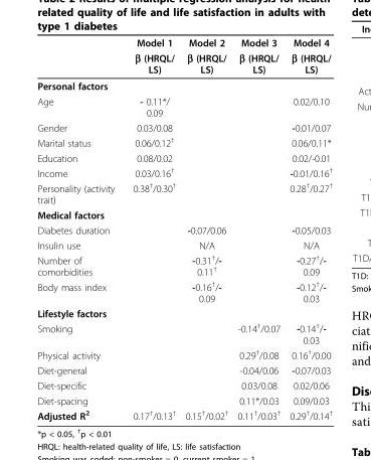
<table><thead><tr><td rowspan="2"></td><td rowspan="2">Model 1 β (HRQL/ LS)</td><td rowspan="2">Model 2 β (HRQL/ LS)</td><td rowspan="2">Model 3 β (HRQL/ LS)</td><td rowspan="2">Model 4 β (HRQL/ LS)</td></tr><tr></tr></thead><tbody><tr><td colspan="5">Personal factors</td></tr><tr><td>Age</td><td>- 0.11*/ 0.09</td><td></td><td></td><td>0.02/0.10</td></tr><tr><td>Gender</td><td>0.03/0.08</td><td></td><td></td><td>-0.01/0.07</td></tr><tr><td>Marital status</td><td>0.06/0.12<sup>†</sup></td><td></td><td></td><td>0.06/0.11*</td></tr><tr><td>Education</td><td>0.08/0.02</td><td></td><td></td><td>0.02/-0.01</td></tr><tr><td>Income</td><td>0.03/0.16<sup>†</sup></td><td></td><td></td><td>-0.01/0.16<sup>†</sup></td></tr><tr><td>Personality (activity trait)</td><td>0.38<sup>†</sup>/0.30<sup>†</sup></td><td></td><td></td><td>0.28<sup>†</sup>/0.27<sup>†</sup></td></tr><tr><td colspan="5">Medical factors</td></tr><tr><td>Diabetes duration</td><td></td><td>-0.07/0.06</td><td></td><td>-0.05/0.03</td></tr><tr><td>Insulin use</td><td></td><td>N/A</td><td></td><td>N/A</td></tr><tr><td>Number of comorbidities</td><td></td><td>-0.31<sup>†</sup>/- 0.11<sup>†</sup></td><td></td><td>-0.27<sup>†</sup>/- 0.09</td></tr><tr><td>Body mass index</td><td></td><td>-0.16<sup>†</sup>/- 0.09</td><td></td><td>-0.12<sup>†</sup>/- 0.03</td></tr><tr><td colspan="5">Lifestyle factors</td></tr><tr><td>Smoking</td><td></td><td></td><td>-0.14<sup>†</sup>/0.07</td><td>-0.14<sup>†</sup>/- 0.03</td></tr><tr><td>Physical activity</td><td></td><td></td><td>0.29<sup>†</sup>/0.08</td><td>0.16<sup>†</sup>/0.00</td></tr><tr><td>Diet-general</td><td></td><td></td><td>-0.04/0.06</td><td>-0.07/0.03</td></tr><tr><td>Diet-specific</td><td></td><td></td><td>0.03/0.08</td><td>0.02/0.06</td></tr><tr><td>Diet-spacing</td><td></td><td></td><td>0.11*/0.03</td><td>0.09/0.03</td></tr><tr><td>Adjusted R<sup>2</sup></td><td>0.17<sup>†</sup>/0.13<sup>†</sup></td><td>0.15<sup>†</sup>/0.02<sup>†</sup></td><td>0.11<sup>†</sup>/0.03<sup>†</sup></td><td>0.29<sup>†</sup>/0.14<sup>†</sup></td></tr></tbody></table>